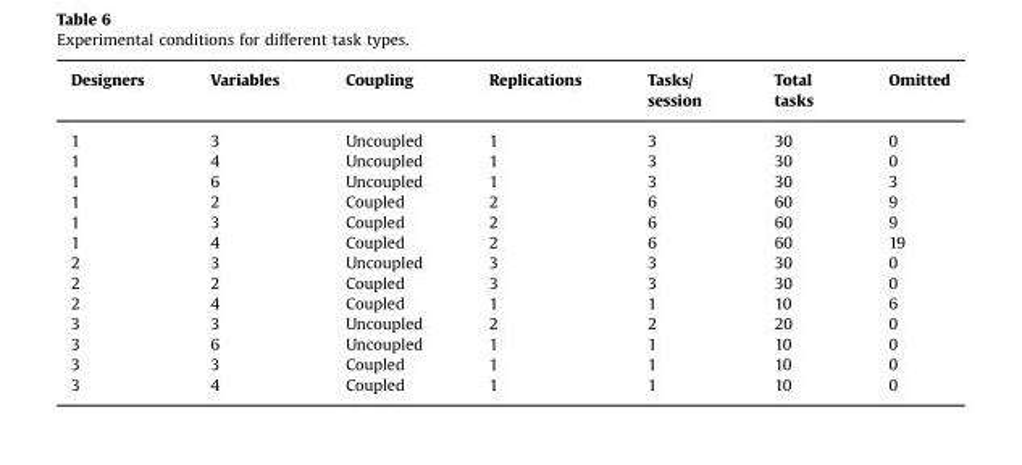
<table><thead><tr><td>Designers</td><td>Variables</td><td>Coupling</td><td>Replications</td><td>Tasks/ session</td><td>Total tasks</td><td>Omitted</td></tr></thead><tbody><tr><td>1</td><td>3</td><td>Uncoupled</td><td>1</td><td>3</td><td>30</td><td>0</td></tr><tr><td>1</td><td>4</td><td>Uncoupled</td><td>1</td><td>3</td><td>30</td><td>0</td></tr><tr><td>1</td><td>6</td><td>Uncoupled</td><td>1</td><td>3</td><td>30</td><td>3</td></tr><tr><td>1</td><td>2</td><td>Coupled</td><td>2</td><td>6</td><td>60</td><td>9</td></tr><tr><td>1</td><td>3</td><td>Coupled</td><td>2</td><td>6</td><td>60</td><td>9</td></tr><tr><td>1</td><td>4</td><td>Coupled</td><td>2</td><td>6</td><td>60</td><td>19</td></tr><tr><td>2</td><td>3</td><td>Uncoupled</td><td>3</td><td>3</td><td>30</td><td>0</td></tr><tr><td>2</td><td>2</td><td>Coupled</td><td>3</td><td>3</td><td>30</td><td>0</td></tr><tr><td>2</td><td>4</td><td>Coupled</td><td>1</td><td>1</td><td>10</td><td>6</td></tr><tr><td>3</td><td>3</td><td>Uncoupled</td><td>2</td><td>2</td><td>20</td><td>0</td></tr><tr><td>3</td><td>6</td><td>Uncoupled</td><td>1</td><td>1</td><td>10</td><td>0</td></tr><tr><td>3</td><td>3</td><td>Coupled</td><td>1</td><td>1</td><td>10</td><td>0</td></tr><tr><td>3</td><td>4</td><td>Coupled</td><td>1</td><td>1</td><td>10</td><td>0</td></tr></tbody></table>